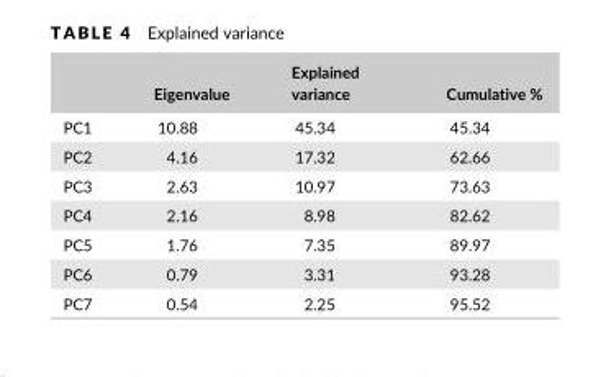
<table><thead><tr><td></td><td>Eigenvalue</td><td>Explained variance</td><td>Cumulative %</td></tr></thead><tbody><tr><td>PC1</td><td>10.88</td><td>45.34</td><td>45.34</td></tr><tr><td>PC2</td><td>4.16</td><td>17.32</td><td>62.66</td></tr><tr><td>PC3</td><td>2.63</td><td>10.97</td><td>73.63</td></tr><tr><td>PC4</td><td>2.16</td><td>8.98</td><td>82.62</td></tr><tr><td>PC5</td><td>1.76</td><td>7.35</td><td>89.97</td></tr><tr><td>PC6</td><td>0.79</td><td>3.31</td><td>93.28</td></tr><tr><td>PC7</td><td>0.54</td><td>2.25</td><td>95.52</td></tr></tbody></table>